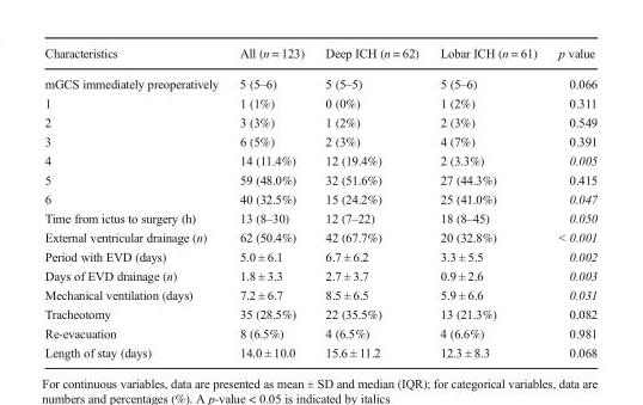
<table><thead><tr><td>Characteristics</td><td>All (n = 123)</td><td>Deep ICH (n = 62)</td><td>Lobar ICH (n = 61)</td><td>p value</td></tr></thead><tbody><tr><td>mGCS immediately preoperatively</td><td>5 (5–6)</td><td>5 (5–5)</td><td>5 (5–6)</td><td>0.066</td></tr><tr><td>1</td><td>1 (1%)</td><td>0 (0%)</td><td>1 (2%)</td><td>0.311</td></tr><tr><td>2</td><td>3 (3%)</td><td>1 (2%)</td><td>2 (3%)</td><td>0.549</td></tr><tr><td>3</td><td>6 (5%)</td><td>2 (3%)</td><td>4 (7%)</td><td>0.391</td></tr><tr><td>4</td><td>14 (11.4%)</td><td>12 (19.4%)</td><td>2 (3.3%)</td><td>0.005</td></tr><tr><td>5</td><td>59 (48.0%)</td><td>32 (51.6%)</td><td>27 (44.3%)</td><td>0.415</td></tr><tr><td>6</td><td>40 (32.5%)</td><td>15 (24.2%)</td><td>25 (41.0%)</td><td>0.047</td></tr><tr><td>Time from ictus to surgery (h)</td><td>13 (8–30)</td><td>12 (7–22)</td><td>18 (8–45)</td><td>0.050</td></tr><tr><td>External ventricular drainage (n)</td><td>62 (50.4%)</td><td>42 (67.7%)</td><td>20 (32.8%)</td><td>&lt; 0.001</td></tr><tr><td>Period with EVD (days)</td><td>5.0 ± 6.1</td><td>6.7 ± 6.2</td><td>3.3 ± 5.5</td><td>0.002</td></tr><tr><td>Days of EVD drainage (n)</td><td>1.8 ± 3.3</td><td>2.7 ± 3.7</td><td>0.9 ± 2.6</td><td>0.003</td></tr><tr><td>Mechanical ventilation (days)</td><td>7.2 ± 6.7</td><td>8.5 ± 6.5</td><td>5.9 ± 6.6</td><td>0.031</td></tr><tr><td>Tracheotomy</td><td>35 (28.5%)</td><td>22 (35.5%)</td><td>13 (21.3%)</td><td>0.082</td></tr><tr><td>Re-evacuation</td><td>8 (6.5%)</td><td>4 (6.5%)</td><td>4 (6.6%)</td><td>0.981</td></tr><tr><td>Length of stay (days)</td><td>14.0 ± 10.0</td><td>15.6 ± 11.2</td><td>12.3 ± 8.3</td><td>0.068</td></tr></tbody></table>